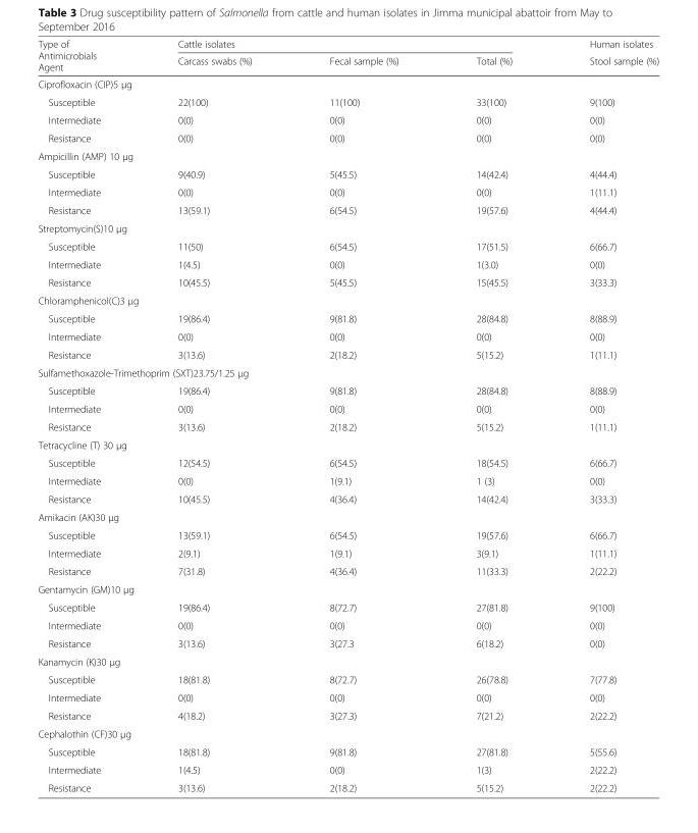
<table><thead><tr><td rowspan="2">Type of Antimicrobials Agent</td><td colspan="3">Cattle isolates</td><td rowspan="2">Human isolates Stool sample (%)</td></tr><tr><td>Carcass swabs (%)</td><td>Fecal sample (%)</td><td>Total (%)</td></tr></thead><tbody><tr><td colspan="5">Ciprofloxacin (CIP)5 μg</td></tr><tr><td>Susceptible</td><td>22(100)</td><td>11(100)</td><td>33(100)</td><td>9(100)</td></tr><tr><td>Intermediate</td><td>0(0)</td><td>0(0)</td><td>0(0)</td><td>0(0)</td></tr><tr><td>Resistance</td><td>0(0)</td><td>0(0)</td><td>0(0)</td><td>0(0)</td></tr><tr><td colspan="5">Ampicillin (AMP) 10 μg</td></tr><tr><td>Susceptible</td><td>9(40.9)</td><td>5(45.5)</td><td>14(42.4)</td><td>4(44.4)</td></tr><tr><td>Intermediate</td><td>0(0)</td><td>0(0)</td><td>0(0)</td><td>1(11.1)</td></tr><tr><td>Resistance</td><td>13(59.1)</td><td>6(54.5)</td><td>19(57.6)</td><td>4(44.4)</td></tr><tr><td colspan="5">Streptomycin(S)10 μg</td></tr><tr><td>Susceptible</td><td>11(50)</td><td>6(54.5)</td><td>17(51.5)</td><td>6(66.7)</td></tr><tr><td>Intermediate</td><td>1(4.5)</td><td>0(0)</td><td>1(3.0)</td><td>0(0)</td></tr><tr><td>Resistance</td><td>10(45.5)</td><td>5(45.5)</td><td>15(45.5)</td><td>3(33.3)</td></tr><tr><td colspan="5">Chloramphenicol(C)3 μg</td></tr><tr><td>Susceptible</td><td>19(86.4)</td><td>9(81.8)</td><td>28(84.8)</td><td>8(88.9)</td></tr><tr><td>Intermediate</td><td>0(0)</td><td>0(0)</td><td>0(0)</td><td>0(0)</td></tr><tr><td>Resistance</td><td>3(13.6)</td><td>2(18.2)</td><td>5(15.2)</td><td>1(11.1)</td></tr><tr><td colspan="5">Sulfamethoxazole-Trimethoprim (SXT)23.75/1.25 μg</td></tr><tr><td>Susceptible</td><td>19(86.4)</td><td>9(81.8)</td><td>28(84.8)</td><td>8(88.9)</td></tr><tr><td>Intermediate</td><td>0(0)</td><td>0(0)</td><td>0(0)</td><td>0(0)</td></tr><tr><td>Resistance</td><td>3(13.6)</td><td>2(18.2)</td><td>5(15.2)</td><td>1(11.1)</td></tr><tr><td colspan="5">Tetracycline (T) 30 μg</td></tr><tr><td>Susceptible</td><td>12(54.5)</td><td>6(54.5)</td><td>18(54.5)</td><td>6(66.7)</td></tr><tr><td>Intermediate</td><td>0(0)</td><td>1(9.1)</td><td>1 (3)</td><td>0(0)</td></tr><tr><td>Resistance</td><td>10(45.5)</td><td>4(36.4)</td><td>14(42.4)</td><td>3(33.3)</td></tr><tr><td colspan="5">Amikacin (AK)30 μg</td></tr><tr><td>Susceptible</td><td>13(59.1)</td><td>6(54.5)</td><td>19(57.6)</td><td>6(66.7)</td></tr><tr><td>Intermediate</td><td>2(9.1)</td><td>1(9.1)</td><td>3(9.1)</td><td>1(11.1)</td></tr><tr><td>Resistance</td><td>7(31.8)</td><td>4(36.4)</td><td>11(33.3)</td><td>2(22.2)</td></tr><tr><td colspan="5">Gentamycin (GM)10 μg</td></tr><tr><td>Susceptible</td><td>19(86.4)</td><td>8(72.7)</td><td>27(81.8)</td><td>9(100)</td></tr><tr><td>Intermediate</td><td>0(0)</td><td>0(0)</td><td>0(0)</td><td>0(0)</td></tr><tr><td>Resistance</td><td>3(13.6)</td><td>3(27.3</td><td>6(18.2)</td><td>0(0)</td></tr><tr><td colspan="5">Kanamycin (K)30 μg</td></tr><tr><td>Susceptible</td><td>18(81.8)</td><td>8(72.7)</td><td>26(78.8)</td><td>7(77.8)</td></tr><tr><td>Intermediate</td><td>0(0)</td><td>0(0)</td><td>0(0)</td><td>0(0)</td></tr><tr><td>Resistance</td><td>4(18.2)</td><td>3(27.3)</td><td>7(21.2)</td><td>2(22.2)</td></tr><tr><td colspan="5">Cephalothin (CF)30 μg</td></tr><tr><td>Susceptible</td><td>18(81.8)</td><td>9(81.8)</td><td>27(81.8)</td><td>5(55.6)</td></tr><tr><td>Intermediate</td><td>1(4.5)</td><td>0(0)</td><td>1(3)</td><td>2(22.2)</td></tr><tr><td>Resistance</td><td>3(13.6)</td><td>2(18.2)</td><td>5(15.2)</td><td>2(22.2)</td></tr></tbody></table>